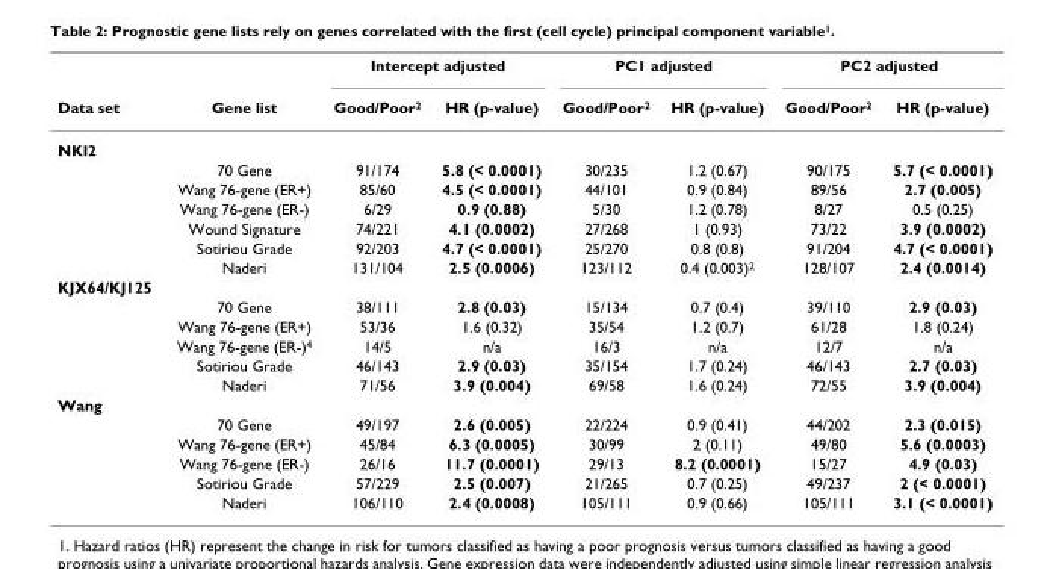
<table><thead><tr><td rowspan="2">Data set</td><td rowspan="2">Gene list</td><td colspan="2">Intercept adjusted</td><td colspan="2">PC1 adjusted</td><td colspan="2">PC2 adjusted</td></tr><tr><td>Good/Poor<sup>2</sup></td><td>HR (p-value)</td><td>Good/Poor<sup>2</sup></td><td>HR (p-value)</td><td>Good/Poor<sup>2</sup></td><td>HR (p-value)</td></tr></thead><tbody><tr><td colspan="8">NKI2</td></tr><tr><td></td><td>70 Gene</td><td>91/174</td><td>5.8 (&lt; 0.0001)</td><td>30/235</td><td>1.2 (0.67)</td><td>90/175</td><td>5.7 (&lt; 0.0001)</td></tr><tr><td></td><td>Wang 76-gene (ER+)</td><td>85/60</td><td>4.5 (&lt; 0.0001)</td><td>44/101</td><td>0.9 (0.84)</td><td>89/56</td><td>2.7 (0.005)</td></tr><tr><td></td><td>Wang 76-gene (ER-)</td><td>6/29</td><td>0.9 (0.88)</td><td>5/30</td><td>1.2 (0.78)</td><td>8/27</td><td>0.5 (0.25)</td></tr><tr><td></td><td>Wound Signature</td><td>74/221</td><td>4.1 (0.0002)</td><td>27/268</td><td>1 (0.93)</td><td>73/22</td><td>3.9 (0.0002)</td></tr><tr><td></td><td>Sotiriou Grade</td><td>92/203</td><td>4.7 (&lt; 0.0001)</td><td>25/270</td><td>0.8 (0.8)</td><td>91/204</td><td>4.7 (&lt; 0.0001)</td></tr><tr><td></td><td>Naderi</td><td>131/104</td><td>2.5 (0.0006)</td><td>123/112</td><td>0.4 (0.003)<sup>2</sup></td><td>128/107</td><td>2.4 (0.0014)</td></tr><tr><td colspan="8">KJX64/KJ125</td></tr><tr><td></td><td>70 Gene</td><td>38/111</td><td>2.8 (0.03)</td><td>15/134</td><td>0.7 (0.4)</td><td>39/110</td><td>2.9 (0.03)</td></tr><tr><td></td><td>Wang 76-gene (ER+)</td><td>53/36</td><td>1.6 (0.32)</td><td>35/54</td><td>1.2 (0.7)</td><td>61/28</td><td>1.8 (0.24)</td></tr><tr><td></td><td>Wang 76-gene (ER-)<sup>4</sup></td><td>14/5</td><td>n/a</td><td>16/3</td><td>n/a</td><td>12/7</td><td>n/a</td></tr><tr><td></td><td>Sotiriou Grade</td><td>46/143</td><td>2.9 (0.03)</td><td>35/154</td><td>1.7 (0.24)</td><td>46/143</td><td>2.7 (0.03)</td></tr><tr><td></td><td>Naderi</td><td>71/56</td><td>3.9 (0.004)</td><td>69/58</td><td>1.6 (0.24)</td><td>72/55</td><td>3.9 (0.004)</td></tr><tr><td colspan="8">Wang</td></tr><tr><td></td><td>70 Gene</td><td>49/197</td><td>2.6 (0.005)</td><td>22/224</td><td>0.9 (0.41)</td><td>44/202</td><td>2.3 (0.015)</td></tr><tr><td></td><td>Wang 76-gene (ER+)</td><td>45/84</td><td>6.3 (0.0005)</td><td>30/99</td><td>2 (0.11)</td><td>49/80</td><td>5.6 (0.0003)</td></tr><tr><td></td><td>Wang 76-gene (ER-)</td><td>26/16</td><td>11.7 (0.0001)</td><td>29/13</td><td>8.2 (0.0001)</td><td>15/27</td><td>4.9 (0.03)</td></tr><tr><td></td><td>Sotiriou Grade</td><td>57/229</td><td>2.5 (0.007)</td><td>21/265</td><td>0.7 (0.25)</td><td>49/237</td><td>2 (&lt; 0.0001)</td></tr><tr><td></td><td>Naderi</td><td>106/110</td><td>2.4 (0.0008)</td><td>105/111</td><td>0.9 (0.66)</td><td>105/111</td><td>3.1 (&lt; 0.0001)</td></tr></tbody></table>